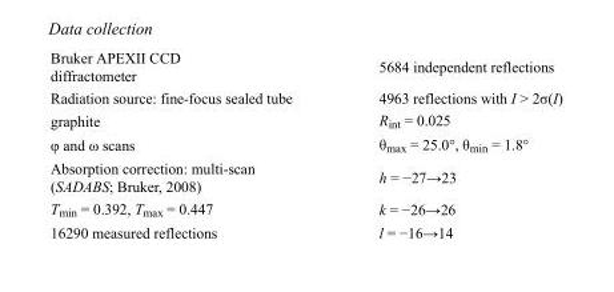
<table><tbody><tr><td>Bruker APEXII CCD diffractometer</td><td>5684 independent reflections</td></tr><tr><td>Radiation source: fine-focus sealed tube</td><td>4963 reflections with I &gt; 2σ(I)</td></tr><tr><td>graphite</td><td>R<sub>int</sub> = 0.025</td></tr><tr><td>φ and ω scans</td><td>θ<sub>max</sub> = 25.0°, θ<sub>min</sub> = 1.8°</td></tr><tr><td>Absorption correction: multi-scan (SADABS; Bruker, 2008)</td><td>h = −27→23</td></tr><tr><td>T<sub>min</sub> = 0.392, T<sub>max</sub> = 0.447</td><td>k = −26→26</td></tr><tr><td>16290 measured reflections</td><td>l = −16→14</td></tr></tbody></table>